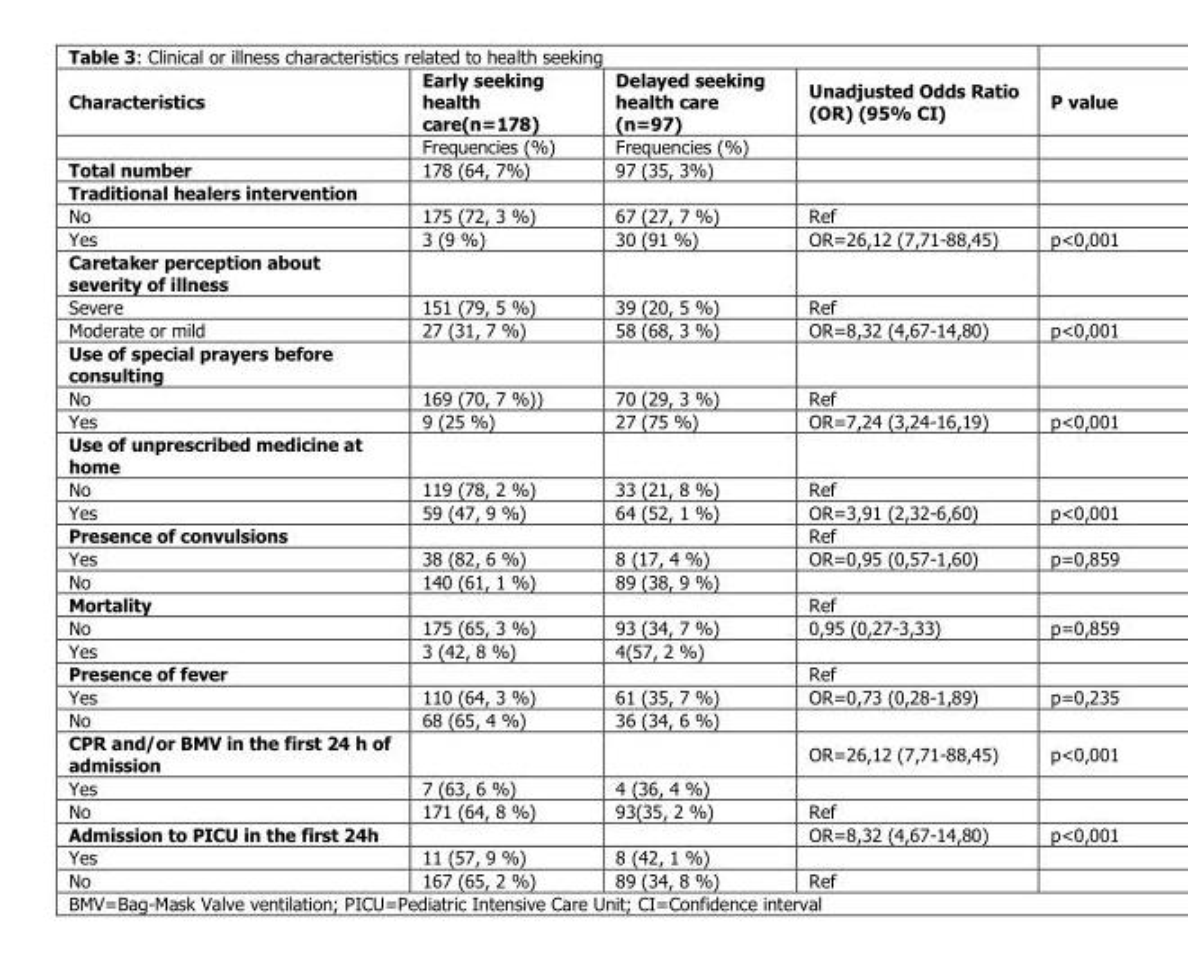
<table><thead><tr><td rowspan="2">Characteristics</td><td rowspan="2">Early seeking health care(n=178) Frequencies (%)</td><td rowspan="2">Delayed seeking health care (n=97) Frequencies (%)</td><td rowspan="2">Unadjusted Odds Ratio (OR) (95% CI)</td><td rowspan="2">P value</td></tr><tr></tr></thead><tbody><tr><td>Total number</td><td>178 (64, 7%)</td><td>97 (35, 3%)</td><td></td><td></td></tr><tr><td colspan="5">Traditional healers intervention</td></tr><tr><td>No</td><td>175 (72, 3 %)</td><td>67 (27, 7 %)</td><td>Ref</td><td></td></tr><tr><td>Yes</td><td>3 (9 %)</td><td>30 (91 %)</td><td>OR=26,12 (7,71-88,45)</td><td>p&lt;0,001</td></tr><tr><td colspan="5">Caretaker perception about severity of illness</td></tr><tr><td>Severe</td><td>151 (79, 5 %)</td><td>39 (20, 5 %)</td><td>Ref</td><td></td></tr><tr><td>Moderate or mild</td><td>27 (31, 7 %)</td><td>58 (68, 3 %)</td><td>OR=8,32 (4,67-14,80)</td><td>p&lt;0,001</td></tr><tr><td colspan="5">Use of special prayers before consulting</td></tr><tr><td>No</td><td>169 (70, 7 %))</td><td>70 (29, 3 %)</td><td>Ref</td><td></td></tr><tr><td>Yes</td><td>9 (25 %)</td><td>27 (75 %)</td><td>OR=7,24 (3,24-16,19)</td><td>p&lt;0,001</td></tr><tr><td colspan="5">Use of unprescribed medicine at home</td></tr><tr><td>No</td><td>119 (78, 2 %)</td><td>33 (21, 8 %)</td><td>Ref</td><td></td></tr><tr><td>Yes</td><td>59 (47, 9 %)</td><td>64 (52, 1 %)</td><td>OR=3,91 (2,32-6,60)</td><td>p&lt;0,001</td></tr><tr><td>Presence of convulsions</td><td></td><td></td><td>Ref</td><td></td></tr><tr><td>Yes</td><td>38 (82, 6 %)</td><td>8 (17, 4 %)</td><td>OR=0,95 (0,57-1,60)</td><td>p=0,859</td></tr><tr><td>No</td><td>140 (61, 1 %)</td><td>89 (38, 9 %)</td><td></td><td></td></tr><tr><td>Mortality</td><td></td><td></td><td>Ref</td><td></td></tr><tr><td>No</td><td>175 (65, 3 %)</td><td>93 (34, 7 %)</td><td>0,95 (0,27-3,33)</td><td>p=0,859</td></tr><tr><td>Yes</td><td>3 (42, 8 %)</td><td>4(57, 2 %)</td><td></td><td></td></tr><tr><td>Presence of fever</td><td></td><td></td><td>Ref</td><td></td></tr><tr><td>Yes</td><td>110 (64, 3 %)</td><td>61 (35, 7 %)</td><td>OR=0,73 (0,28-1,89)</td><td>p=0,235</td></tr><tr><td>No</td><td>68 (65, 4 %)</td><td>36 (34, 6 %)</td><td></td><td></td></tr><tr><td>CPR and/or BMV in the first 24 h of admission</td><td></td><td></td><td>OR=26,12 (7,71-88,45)</td><td>p&lt;0,001</td></tr><tr><td>Yes</td><td>7 (63, 6 %)</td><td>4 (36, 4 %)</td><td></td><td></td></tr><tr><td>No</td><td>171 (64, 8 %)</td><td>93(35, 2 %)</td><td>Ref</td><td></td></tr><tr><td>Admission to PICU in the first 24h</td><td></td><td></td><td>OR=8,32 (4,67-14,80)</td><td>p&lt;0,001</td></tr><tr><td>Yes</td><td>11 (57, 9 %)</td><td>8 (42, 1 %)</td><td></td><td></td></tr><tr><td>No</td><td>167 (65, 2 %)</td><td>89 (34, 8 %)</td><td>Ref</td><td></td></tr></tbody></table>